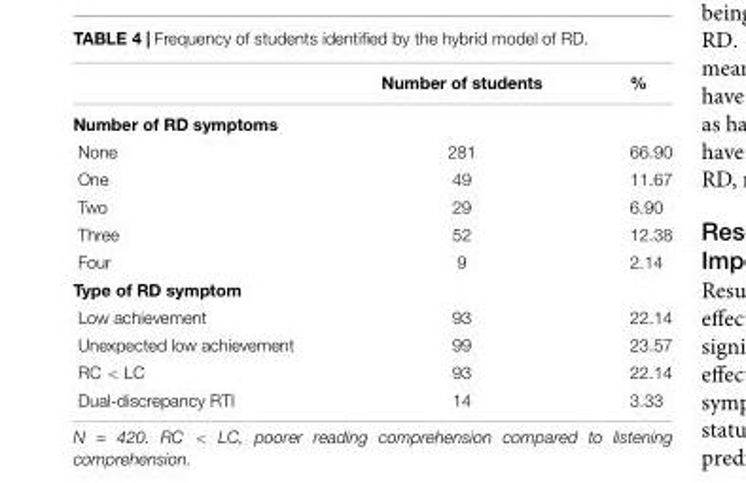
<table><thead><tr><td></td><td>Number of students</td><td>%</td></tr></thead><tbody><tr><td colspan="3">Number of RD symptoms</td></tr><tr><td>None</td><td>281</td><td>66.90</td></tr><tr><td>One</td><td>49</td><td>11.67</td></tr><tr><td>Two</td><td>29</td><td>6.90</td></tr><tr><td>Three</td><td>52</td><td>12.38</td></tr><tr><td>Four</td><td>9</td><td>2.14</td></tr><tr><td colspan="3">Type of RD symptom</td></tr><tr><td>Low achievement</td><td>93</td><td>22.14</td></tr><tr><td>Unexpected low achievement</td><td>99</td><td>23.57</td></tr><tr><td>RC &lt; LC</td><td>93</td><td>22.14</td></tr><tr><td>Dual-discrepancy RTI</td><td>14</td><td>3.33</td></tr></tbody></table>